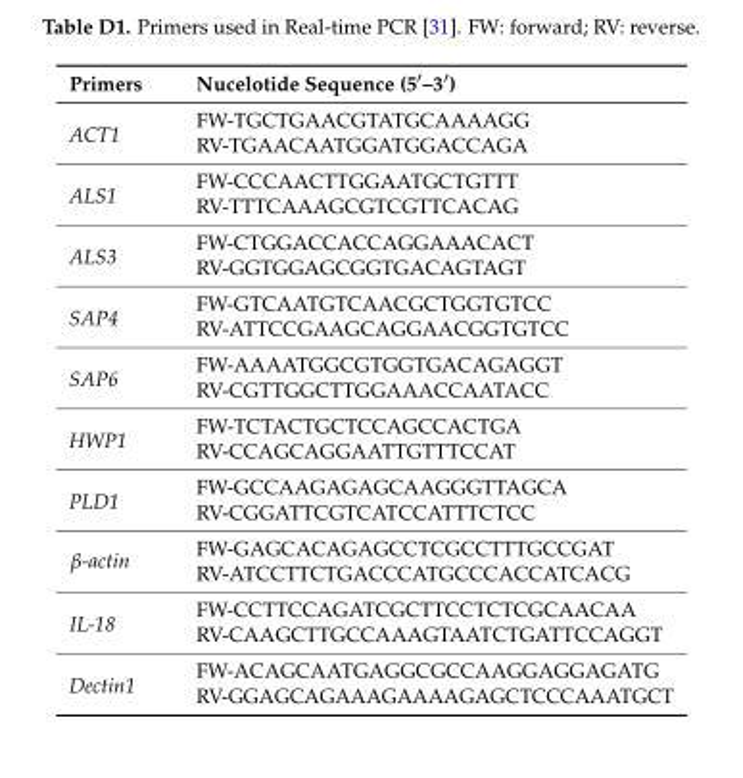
<table><thead><tr><td>Primers</td><td>Nucelotide Sequence (5′–3′)</td></tr></thead><tbody><tr><td rowspan="2">ACT1</td><td>FW-TGCTGAACGTATGCAAAAGG</td></tr><tr><td>RV-TGAACAATGGATGGACCAGA</td></tr><tr><td rowspan="2">ALS1</td><td>FW-CCCAACTTGGAATGCTGTTT</td></tr><tr><td>RV-TTTCAAAGCGTCGTTCACAG</td></tr><tr><td rowspan="2">ALS3</td><td>FW-CTGGACCACCAGGAAACACT</td></tr><tr><td>RV-GGTGGAGCGGTGACAGTAGT</td></tr><tr><td rowspan="2">SAP4</td><td>FW-GTCAATGTCAACGCTGGTGTCC</td></tr><tr><td>RV-ATTCCGAAGCAGGAACGGTGTCC</td></tr><tr><td rowspan="2">SAP6</td><td>FW-AAAATGGCGTGGTGACAGAGGT</td></tr><tr><td>RV-CGTTGGCTTGGAAACCAATACC</td></tr><tr><td rowspan="2">HWP1</td><td>FW-TCTACTGCTCCAGCCACTGA</td></tr><tr><td>RV-CCAGCAGGAATTGTTTCCAT</td></tr><tr><td rowspan="2">PLD1</td><td>FW-GCCAAGAGAGCAAGGGTTAGCA</td></tr><tr><td>RV-CGGATTCGTCATCCATTTCTCC</td></tr><tr><td rowspan="2">β-actin</td><td>FW-GAGCACAGAGCCTCGCCTTTGCCGAT</td></tr><tr><td>RV-ATCCTTCTGACCCATGCCCACCATCACG</td></tr><tr><td rowspan="2">IL-18</td><td>FW-CCTTCCAGATCGCTTCCTCTCGCAACAA</td></tr><tr><td>RV-CAAGCTTGCCAAAGTAATCTGATTCCAGGT</td></tr><tr><td rowspan="2">Dectin1</td><td>FW-ACAGCAATGAGGCGCCAAGGAGGAGATG</td></tr><tr><td>RV-GGAGCAGAAAGAAAAGAGCTCCCAAATGCT</td></tr></tbody></table>